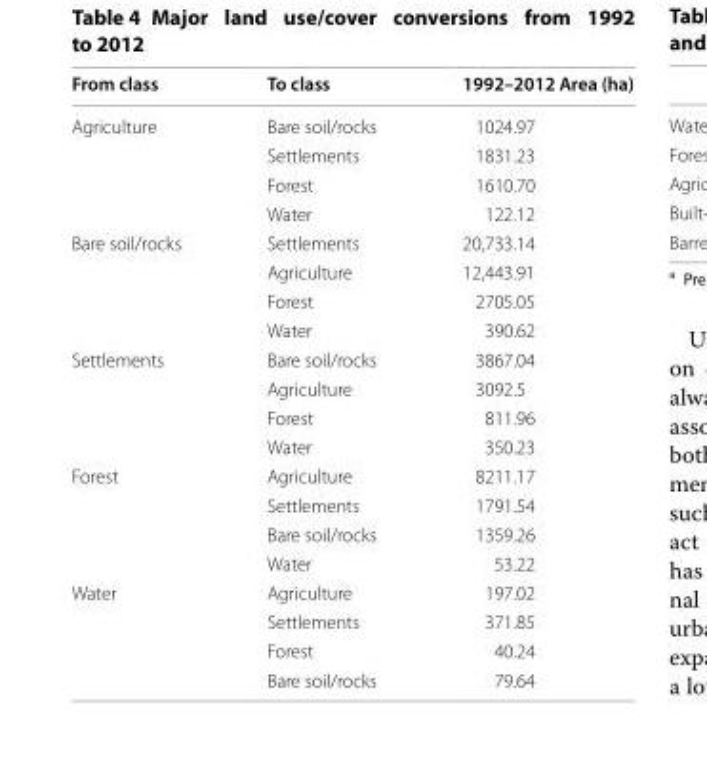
<table><thead><tr><td>From class</td><td>To class</td><td>1992–2012 Area (ha)</td></tr></thead><tbody><tr><td rowspan="4">Agriculture</td><td>Bare soil/rocks</td><td>1024.97</td></tr><tr><td>Settlements</td><td>1831.23</td></tr><tr><td>Forest</td><td>1610.70</td></tr><tr><td>Water</td><td>122.12</td></tr><tr><td rowspan="4">Bare soil/rocks</td><td>Settlements</td><td>20,733.14</td></tr><tr><td>Agriculture</td><td>12,443.91</td></tr><tr><td>Forest</td><td>2705.05</td></tr><tr><td>Water</td><td>390.62</td></tr><tr><td rowspan="4">Settlements</td><td>Bare soil/rocks</td><td>3867.04</td></tr><tr><td>Agriculture</td><td>3092.5</td></tr><tr><td>Forest</td><td>811.96</td></tr><tr><td>Water</td><td>350.23</td></tr><tr><td rowspan="4">Forest</td><td>Agriculture</td><td>8211.17</td></tr><tr><td>Settlements</td><td>1791.54</td></tr><tr><td>Bare soil/rocks</td><td>1359.26</td></tr><tr><td>Water</td><td>53.22</td></tr><tr><td rowspan="4">Water</td><td>Agriculture</td><td>197.02</td></tr><tr><td>Settlements</td><td>371.85</td></tr><tr><td>Forest</td><td>40.24</td></tr><tr><td>Bare soil/rocks</td><td>79.64</td></tr></tbody></table>